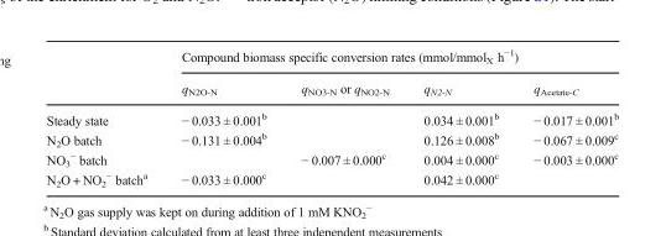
<table><thead><tr><td rowspan="2"></td><td colspan="4">Compound biomass specific conversion rates (mmol/mmol<sub>X</sub> h<sup>−1</sup>)</td></tr><tr><td>q<sub>N2O-N</sub></td><td>q<sub>NO3-N</sub> or q<sub>NO2-N</sub></td><td>q<sub>N2-N</sub></td><td>q<sub>Acetate-C</sub></td></tr></thead><tbody><tr><td>Steady state</td><td>− 0.033 ± 0.001<sup>b</sup></td><td></td><td>0.034 ± 0.001<sup>b</sup></td><td>− 0.017 ± 0.001<sup>b</sup></td></tr><tr><td>N<sub>2</sub>O batch</td><td>− 0.131 ± 0.004<sup>b</sup></td><td></td><td>0.126 ± 0.008<sup>b</sup></td><td>− 0.067 ± 0.009<sup>c</sup></td></tr><tr><td>NO<sub>3</sub> <sup>−</sup> batch</td><td></td><td>− 0.007 ± 0.000<sup>c</sup></td><td>0.004 ± 0.000<sup>c</sup></td><td>− 0.003 ± 0.000<sup>c</sup></td></tr><tr><td>N<sub>2</sub>O + NO<sub>2</sub> <sup>−</sup> batch<sup>a</sup></td><td>− 0.033 ± 0.000<sup>c</sup></td><td></td><td>0.042 ± 0.000<sup>c</sup></td><td></td></tr></tbody></table>